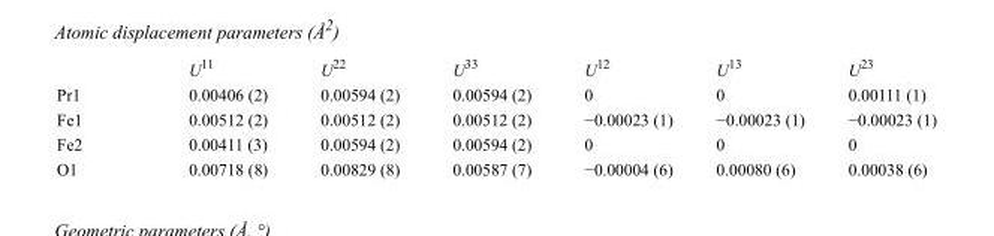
<table><thead><tr><td></td><td>U<sup>11</sup></td><td>U<sup>22</sup></td><td>U<sup>33</sup></td><td>U<sup>12</sup></td><td>U<sup>13</sup></td><td>U<sup>23</sup></td></tr></thead><tbody><tr><td>Pr1</td><td>0.00406 (2)</td><td>0.00594 (2)</td><td>0.00594 (2)</td><td>0</td><td>0</td><td>0.00111 (1)</td></tr><tr><td>Fe1</td><td>0.00512 (2)</td><td>0.00512 (2)</td><td>0.00512 (2)</td><td>−0.00023 (1)</td><td>−0.00023 (1)</td><td>−0.00023 (1)</td></tr><tr><td>Fe2</td><td>0.00411 (3)</td><td>0.00594 (2)</td><td>0.00594 (2)</td><td>0</td><td>0</td><td>0</td></tr><tr><td>O1</td><td>0.00718 (8)</td><td>0.00829 (8)</td><td>0.00587 (7)</td><td>−0.00004 (6)</td><td>0.00080 (6)</td><td>0.00038 (6)</td></tr></tbody></table>